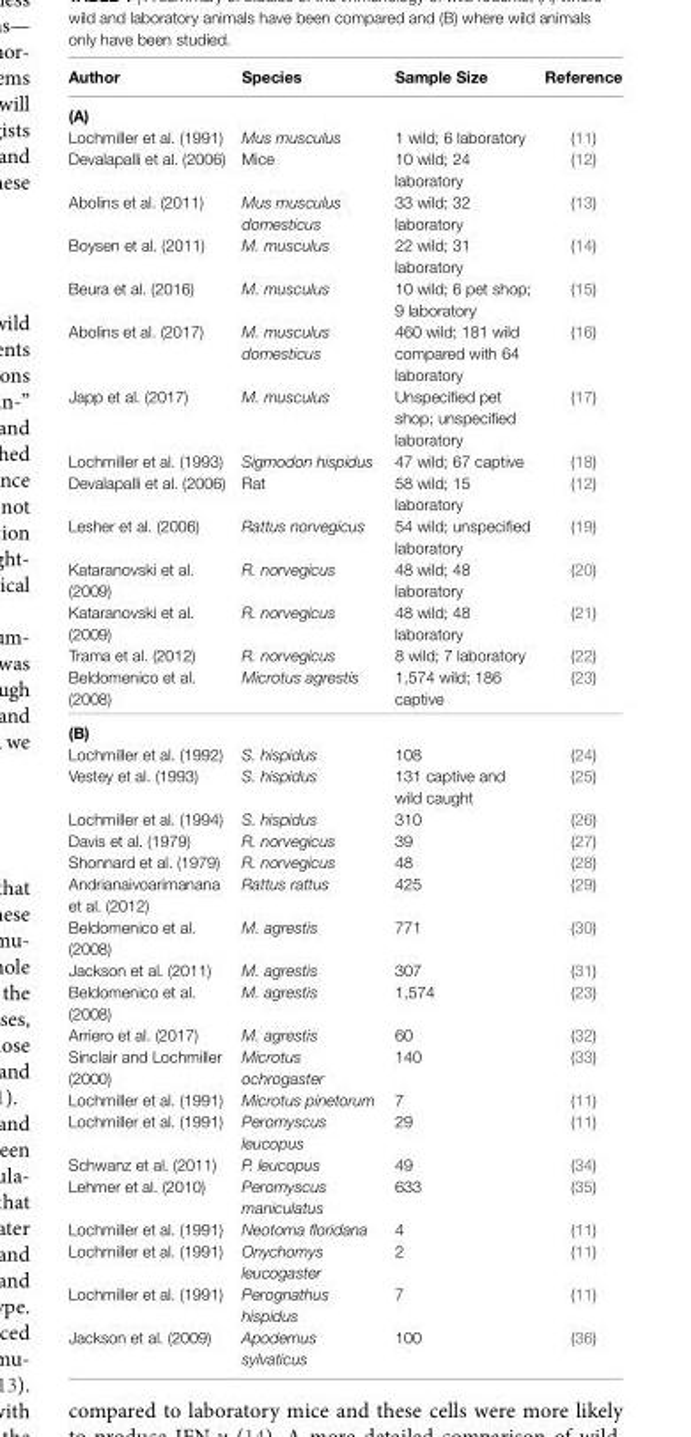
<table><thead><tr><td>Author</td><td>Species</td><td>Sample Size</td><td>Reference</td></tr></thead><tbody><tr><td colspan="4">(A)</td></tr><tr><td>Lochmiller et al. (1991)</td><td>Mus musculus</td><td>1 wild; 6 laboratory</td><td>(11)</td></tr><tr><td>Devalapalli et al. (2006)</td><td>Mice</td><td>10 wild; 24 laboratory</td><td>(12)</td></tr><tr><td>Abolins et al. (2011)</td><td>Mus musculus domesticus</td><td>33 wild; 32 laboratory</td><td>(13)</td></tr><tr><td>Boysen et al. (2011)</td><td>M. musculus</td><td>22 wild; 31 laboratory</td><td>(14)</td></tr><tr><td>Beura et al. (2016)</td><td>M. musculus</td><td>10 wild; 6 pet shop; 9 laboratory</td><td>(15)</td></tr><tr><td>Abolins et al. (2017)</td><td>M. musculus domesticus</td><td>460 wild; 181 wild compared with 64 laboratory</td><td>(16)</td></tr><tr><td>Japp et al. (2017)</td><td>M. musculus</td><td>Unspecified pet shop; unspecified laboratory</td><td>(17)</td></tr><tr><td>Lochmiller et al. (1993)</td><td>Sigmodon hispidus</td><td>47 wild; 67 captive</td><td>(18)</td></tr><tr><td>Devalapalli et al. (2006)</td><td>Rat</td><td>58 wild; 15 laboratory</td><td>(12)</td></tr><tr><td>Lesher et al. (2006)</td><td>Rattus norvegicus</td><td>54 wild; unspecified laboratory</td><td>(19)</td></tr><tr><td>Kataranovski et al. (2009)</td><td>R. norvegicus</td><td>48 wild; 48 laboratory</td><td>(20)</td></tr><tr><td>Kataranovski et al. (2009)</td><td>R. norvegicus</td><td>48 wild; 48 laboratory</td><td>(21)</td></tr><tr><td>Trama et al. (2012)</td><td>R. norvegicus</td><td>8 wild; 7 laboratory</td><td>(22)</td></tr><tr><td>Beldomenico et al. (2008)</td><td>Microtus agrestis</td><td>1,574 wild; 186 captive</td><td>(23)</td></tr><tr><td colspan="4">(b)</td></tr><tr><td>Lochmiller et al. (1992)</td><td>S. hispidus</td><td>108</td><td>(24)</td></tr><tr><td>Vestey et al. (1993)</td><td>S. hispidus</td><td>131 captive and wild caught</td><td>(25)</td></tr><tr><td>Lochmiller et al. (1994)</td><td>S. hispidus</td><td>310</td><td>(26)</td></tr><tr><td>Davis et al. (1979)</td><td>R. norvegicus</td><td>39</td><td>(27)</td></tr><tr><td>Shonnard et al. (1979)</td><td>R. norvegicus</td><td>48</td><td>(28)</td></tr><tr><td>Andrianaivoarimanana et al. (2012)</td><td>Rattus rattus</td><td>425</td><td>(29)</td></tr><tr><td>Beldomenico et al. (2008)</td><td>M. agrestis</td><td>771</td><td>(30)</td></tr><tr><td>Jackson et al. (2011)</td><td>M. agrestis</td><td>307</td><td>(31)</td></tr><tr><td>Beldomenico et al. (2008)</td><td>M. agrestis</td><td>1,574</td><td>(23)</td></tr><tr><td>Arriero et al. (2017)</td><td>M. agrestis</td><td>60</td><td>(32)</td></tr><tr><td>Sinclair and Lochmiller (2000)</td><td>Microtus ochrogaster</td><td>140</td><td>(33)</td></tr><tr><td>Lochmiller et al. (1991)</td><td>Microtus pinetorum</td><td>7</td><td>(11)</td></tr><tr><td>Lochmiller et al. (1991)</td><td>Peromyscus leucopus</td><td>29</td><td>(11)</td></tr><tr><td>Schwanz et al. (2011)</td><td>P. leucopus</td><td>49</td><td>(34)</td></tr><tr><td>Lehmer et al. (2010)</td><td>Peromyscus maniculatus</td><td>633</td><td>(35)</td></tr><tr><td>Lochmiller et al. (1991)</td><td>Neotoma floridana</td><td>4</td><td>(11)</td></tr><tr><td>Lochmiller et al. (1991)</td><td>Onychomys leucogaster</td><td>2</td><td>(11)</td></tr><tr><td>Lochmiller et al. (1991)</td><td>Perognathus hispidus</td><td>7</td><td>(11)</td></tr><tr><td>Jackson et al. (2009)</td><td>Apodemus sylvaticus</td><td>100</td><td>(36)</td></tr></tbody></table>